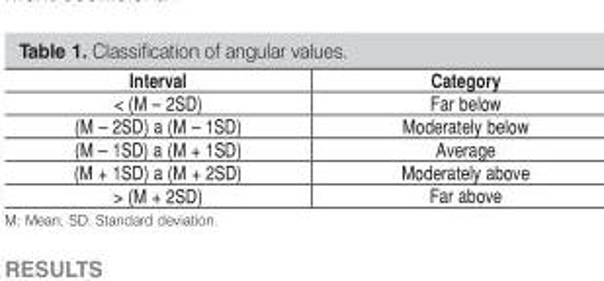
<table><thead><tr><td>Interval</td><td>Category</td></tr></thead><tbody><tr><td>&lt; (M – 2SD)</td><td>Far below</td></tr><tr><td>(M – 2SD) a (M – 1SD)</td><td>Moderately below</td></tr><tr><td>(M – 1SD) a (M + 1SD)</td><td>Average</td></tr><tr><td>(M + 1SD) a (M + 2SD)</td><td>Moderately above</td></tr><tr><td>&gt; (M + 2SD)</td><td>Far above</td></tr></tbody></table>